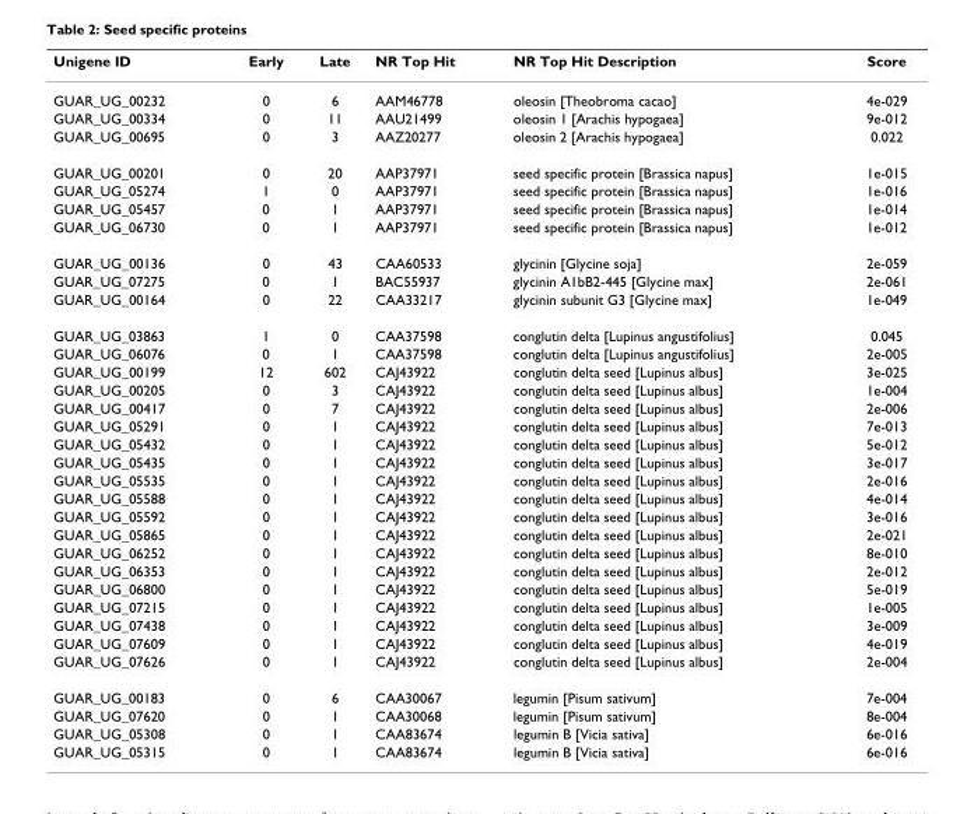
<table><thead><tr><td>Unigene ID</td><td>Early</td><td>Late</td><td>NR Top Hit</td><td>NR Top Hit Description</td><td>Score</td></tr></thead><tbody><tr><td>GUAR_UG_00232</td><td>0</td><td>6</td><td>AAM46778</td><td>oleosin [Theobroma cacao]</td><td>4e-029</td></tr><tr><td>GUAR_UG_00334</td><td>0</td><td>11</td><td>AAU21499</td><td>oleosin 1 [Arachis hypogaea]</td><td>9e-012</td></tr><tr><td>GUAR_UG_00695</td><td>0</td><td>3</td><td>AAZ20277</td><td>oleosin 2 [Arachis hypogaea]</td><td>0.022</td></tr><tr><td>GUAR_UG_00201</td><td>0</td><td>20</td><td>AAP37971</td><td>seed specific protein [Brassica napus]</td><td>1e-015</td></tr><tr><td>GUAR_UG_05274</td><td>1</td><td>0</td><td>AAP37971</td><td>seed specific protein [Brassica napus]</td><td>1e-016</td></tr><tr><td>GUAR_UG_05457</td><td>0</td><td>1</td><td>AAP37971</td><td>seed specific protein [Brassica napus]</td><td>1e-014</td></tr><tr><td>GUAR_UG_06730</td><td>0</td><td>1</td><td>AAP37971</td><td>seed specific protein [Brassica napus]</td><td>1e-012</td></tr><tr><td>GUAR_UG_00136</td><td>0</td><td>43</td><td>CAA60533</td><td>glycinin [Glycine soja]</td><td>2e-059</td></tr><tr><td>GUAR_UG_07275</td><td>0</td><td>1</td><td>BAC55937</td><td>glycinin A1bB2-445 [Glycine max]</td><td>2e-061</td></tr><tr><td>GUAR_UG_00164</td><td>0</td><td>22</td><td>CAA33217</td><td>glycinin subunit G3 [Glycine max]</td><td>1e-049</td></tr><tr><td>GUAR_UG_03863</td><td>1</td><td>0</td><td>CAA37598</td><td>conglutin delta [Lupinus angustifolius]</td><td>0.045</td></tr><tr><td>GUAR_UG_06076</td><td>0</td><td>1</td><td>CAA37598</td><td>conglutin delta [Lupinus angustifolius]</td><td>2e-005</td></tr><tr><td>GUAR_UG_00199</td><td>12</td><td>602</td><td>CAJ43922</td><td>conglutin delta seed [Lupinus albus]</td><td>3e-025</td></tr><tr><td>GUAR_UG_00205</td><td>0</td><td>3</td><td>CAJ43922</td><td>conglutin delta seed [Lupinus albus]</td><td>1e-004</td></tr><tr><td>GUAR_UG_00417</td><td>0</td><td>7</td><td>CAJ43922</td><td>conglutin delta seed [Lupinus albus]</td><td>2e-006</td></tr><tr><td>GUAR_UG_05291</td><td>0</td><td>1</td><td>CAJ43922</td><td>conglutin delta seed [Lupinus albus]</td><td>7e-013</td></tr><tr><td>GUAR_UG_05432</td><td>0</td><td>1</td><td>CAJ43922</td><td>conglutin delta seed [Lupinus albus]</td><td>5e-012</td></tr><tr><td>GUAR_UG_05435</td><td>0</td><td>1</td><td>CAJ43922</td><td>conglutin delta seed [Lupinus albus]</td><td>3e-017</td></tr><tr><td>GUAR_UG_05535</td><td>0</td><td>1</td><td>CAJ43922</td><td>conglutin delta seed [Lupinus albus]</td><td>2e-016</td></tr><tr><td>GUAR_UG_05588</td><td>0</td><td>1</td><td>CAJ43922</td><td>conglutin delta seed [Lupinus albus]</td><td>4e-014</td></tr><tr><td>GUAR_UG_05592</td><td>0</td><td>1</td><td>CAJ43922</td><td>conglutin delta seed [Lupinus albus]</td><td>3e-016</td></tr><tr><td>GUAR_UG_05865</td><td>0</td><td>1</td><td>CAJ43922</td><td>conglutin delta seed [Lupinus albus]</td><td>2e-021</td></tr><tr><td>GUAR_UG_06252</td><td>0</td><td>1</td><td>CAJ43922</td><td>conglutin delta seed [Lupinus albus]</td><td>8e-010</td></tr><tr><td>GUAR_UG_06353</td><td>0</td><td>1</td><td>CAJ43922</td><td>conglutin delta seed [Lupinus albus]</td><td>2e-012</td></tr><tr><td>GUAR_UG_06800</td><td>0</td><td>1</td><td>CAJ43922</td><td>conglutin delta seed [Lupinus albus]</td><td>5e-019</td></tr><tr><td>GUAR_UG_07215</td><td>0</td><td>1</td><td>CAJ43922</td><td>conglutin delta seed [Lupinus albus]</td><td>1e-005</td></tr><tr><td>GUAR_UG_07438</td><td>0</td><td>1</td><td>CAJ43922</td><td>conglutin delta seed [Lupinus albus]</td><td>3e-009</td></tr><tr><td>GUAR_UG_07609</td><td>0</td><td>1</td><td>CAJ43922</td><td>conglutin delta seed [Lupinus albus]</td><td>4e-019</td></tr><tr><td>GUAR_UG_07626</td><td>0</td><td>1</td><td>CAJ43922</td><td>conglutin delta seed [Lupinus albus]</td><td>2e-004</td></tr><tr><td>GUAR_UG_00183</td><td>0</td><td>6</td><td>CAA30067</td><td>legumin [Pisum sativum]</td><td>7e-004</td></tr><tr><td>GUAR_UG_07620</td><td>0</td><td>1</td><td>CAA30068</td><td>legumin [Pisum sativum]</td><td>8e-004</td></tr><tr><td>GUAR_UG_05308</td><td>0</td><td>1</td><td>CAA83674</td><td>legumin B [Vicia sativa]</td><td>6e-016</td></tr><tr><td>GUAR_UG_05315</td><td>0</td><td>1</td><td>CAA83674</td><td>legumin B [Vicia sativa]</td><td>6e-016</td></tr></tbody></table>